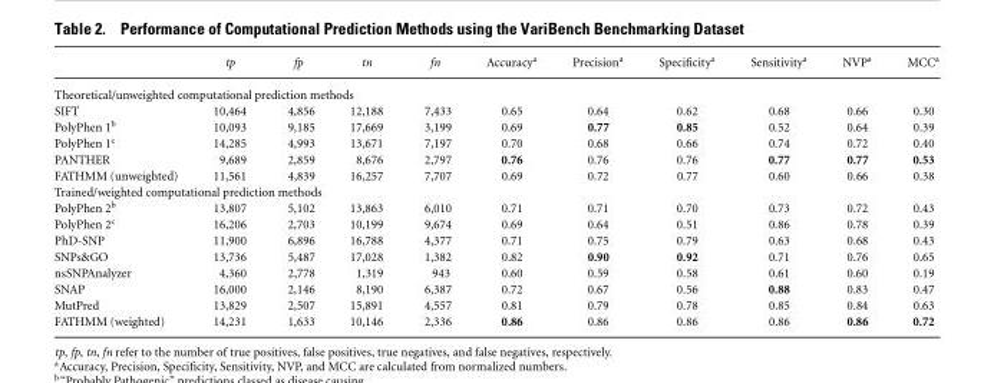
<table><thead><tr><td></td><td>tp</td><td>fp</td><td>tn</td><td>fn</td><td>Accuracy<sup>a</sup></td><td>Precision<sup>a</sup></td><td>Specificity<sup>a</sup></td><td>Sensitivity<sup>a</sup></td><td>NVP<sup>a</sup></td><td>MCC<sup>a</sup></td></tr></thead><tbody><tr><td colspan="11">Theoretical/unweighted computational prediction methods</td></tr><tr><td>SIFT</td><td>10,464</td><td>4,856</td><td>12,188</td><td>7,433</td><td>0.65</td><td>0.64</td><td>0.62</td><td>0.68</td><td>0.66</td><td>0.30</td></tr><tr><td>PolyPhen 1<sup>b</sup></td><td>10,093</td><td>9,185</td><td>17,669</td><td>3,199</td><td>0.69</td><td>0.77</td><td>0.85</td><td>0.52</td><td>0.64</td><td>0.39</td></tr><tr><td>PolyPhen 1<sup>c</sup></td><td>14,285</td><td>4,993</td><td>13,671</td><td>7,197</td><td>0.70</td><td>0.68</td><td>0.66</td><td>0.74</td><td>0.72</td><td>0.40</td></tr><tr><td>PANTHER</td><td>9,689</td><td>2,859</td><td>8,676</td><td>2,797</td><td>0.76</td><td>0.76</td><td>0.76</td><td>0.77</td><td>0.77</td><td>0.53</td></tr><tr><td>FATHMM (unweighted)</td><td>11,561</td><td>4,839</td><td>16,257</td><td>7,707</td><td>0.69</td><td>0.72</td><td>0.77</td><td>0.60</td><td>0.66</td><td>0.38</td></tr><tr><td colspan="11">Trained/weighted computational prediction methods</td></tr><tr><td>PolyPhen 2<sup>b</sup></td><td>13,807</td><td>5,102</td><td>13,863</td><td>6,010</td><td>0.71</td><td>0.71</td><td>0.70</td><td>0.73</td><td>0.72</td><td>0.43</td></tr><tr><td>PolyPhen 2<sup>c</sup></td><td>16,206</td><td>2,703</td><td>10,199</td><td>9,674</td><td>0.69</td><td>0.64</td><td>0.51</td><td>0.86</td><td>0.78</td><td>0.39</td></tr><tr><td>PhD-SNP</td><td>11,900</td><td>6,896</td><td>16,788</td><td>4,377</td><td>0.71</td><td>0.75</td><td>0.79</td><td>0.63</td><td>0.68</td><td>0.43</td></tr><tr><td>SNPs&amp;GO</td><td>13,736</td><td>5,487</td><td>17,028</td><td>1,382</td><td>0.82</td><td>0.90</td><td>0.92</td><td>0.71</td><td>0.76</td><td>0.65</td></tr><tr><td>nsSNPAnalyzer</td><td>4,360</td><td>2,778</td><td>1,319</td><td>943</td><td>0.60</td><td>0.59</td><td>0.58</td><td>0.61</td><td>0.60</td><td>0.19</td></tr><tr><td>SNAP</td><td>16,000</td><td>2,146</td><td>8,190</td><td>6,387</td><td>0.72</td><td>0.67</td><td>0.56</td><td>0.88</td><td>0.83</td><td>0.47</td></tr><tr><td>MutPred</td><td>13,829</td><td>2,507</td><td>15,891</td><td>4,557</td><td>0.81</td><td>0.79</td><td>0.78</td><td>0.85</td><td>0.84</td><td>0.63</td></tr><tr><td>FATHMM (weighted)</td><td>14,231</td><td>1,633</td><td>10,146</td><td>2,336</td><td>0.86</td><td>0.86</td><td>0.86</td><td>0.86</td><td>0.86</td><td>0.72</td></tr></tbody></table>